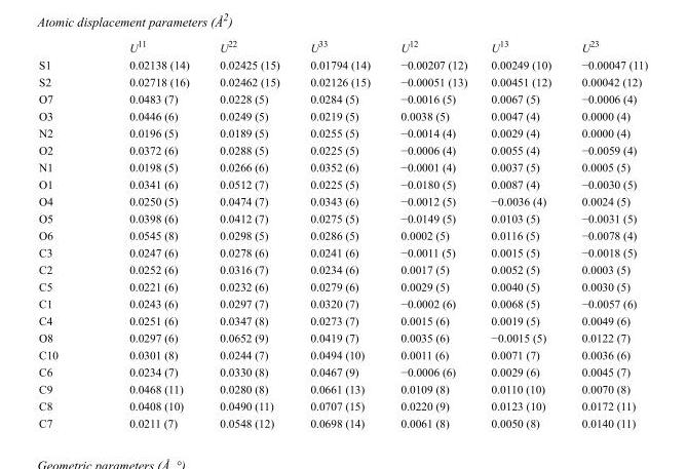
<table><thead><tr><td></td><td>U<sup>11</sup></td><td>U<sup>22</sup></td><td>U<sup>33</sup></td><td>U<sup>12</sup></td><td>U<sup>13</sup></td><td>U<sup>23</sup></td></tr></thead><tbody><tr><td>S1</td><td>0.02138 (14)</td><td>0.02425 (15)</td><td>0.01794 (14)</td><td>−0.00207 (12)</td><td>0.00249 (10)</td><td>−0.00047 (11)</td></tr><tr><td>S2</td><td>0.02718 (16)</td><td>0.02462 (15)</td><td>0.02126 (15)</td><td>−0.00051 (13)</td><td>0.00451 (12)</td><td>0.00042 (12)</td></tr><tr><td>O7</td><td>0.0483 (7)</td><td>0.0228 (5)</td><td>0.0284 (5)</td><td>−0.0016 (5)</td><td>0.0067 (5)</td><td>−0.0006 (4)</td></tr><tr><td>O3</td><td>0.0446 (6)</td><td>0.0249 (5)</td><td>0.0219 (5)</td><td>0.0038 (5)</td><td>0.0047 (4)</td><td>0.0000 (4)</td></tr><tr><td>N2</td><td>0.0196 (5)</td><td>0.0189 (5)</td><td>0.0255 (5)</td><td>−0.0014 (4)</td><td>0.0029 (4)</td><td>0.0000 (4)</td></tr><tr><td>O2</td><td>0.0372 (6)</td><td>0.0288 (5)</td><td>0.0225 (5)</td><td>−0.0006 (4)</td><td>0.0055 (4)</td><td>−0.0059 (4)</td></tr><tr><td>N1</td><td>0.0198 (5)</td><td>0.0266 (6)</td><td>0.0352 (6)</td><td>−0.0001 (4)</td><td>0.0037 (5)</td><td>0.0005 (5)</td></tr><tr><td>O1</td><td>0.0341 (6)</td><td>0.0512 (7)</td><td>0.0225 (5)</td><td>−0.0180 (5)</td><td>0.0087 (4)</td><td>−0.0030 (5)</td></tr><tr><td>O4</td><td>0.0250 (5)</td><td>0.0474 (7)</td><td>0.0343 (6)</td><td>−0.0012 (5)</td><td>−0.0036 (4)</td><td>0.0024 (5)</td></tr><tr><td>O5</td><td>0.0398 (6)</td><td>0.0412 (7)</td><td>0.0275 (5)</td><td>−0.0149 (5)</td><td>0.0103 (5)</td><td>−0.0031 (5)</td></tr><tr><td>O6</td><td>0.0545 (8)</td><td>0.0298 (5)</td><td>0.0286 (5)</td><td>0.0002 (5)</td><td>0.0116 (5)</td><td>−0.0078 (4)</td></tr><tr><td>C3</td><td>0.0247 (6)</td><td>0.0278 (6)</td><td>0.0241 (6)</td><td>−0.0011 (5)</td><td>0.0015 (5)</td><td>−0.0018 (5)</td></tr><tr><td>C2</td><td>0.0252 (6)</td><td>0.0316 (7)</td><td>0.0234 (6)</td><td>0.0017 (5)</td><td>0.0052 (5)</td><td>0.0003 (5)</td></tr><tr><td>C5</td><td>0.0221 (6)</td><td>0.0232 (6)</td><td>0.0279 (6)</td><td>0.0029 (5)</td><td>0.0040 (5)</td><td>0.0030 (5)</td></tr><tr><td>C1</td><td>0.0243 (6)</td><td>0.0297 (7)</td><td>0.0320 (7)</td><td>−0.0002 (6)</td><td>0.0068 (5)</td><td>−0.0057 (6)</td></tr><tr><td>C4</td><td>0.0251 (6)</td><td>0.0347 (8)</td><td>0.0273 (7)</td><td>0.0015 (6)</td><td>0.0019 (5)</td><td>0.0049 (6)</td></tr><tr><td>O8</td><td>0.0297 (6)</td><td>0.0652 (9)</td><td>0.0419 (7)</td><td>0.0035 (6)</td><td>−0.0015 (5)</td><td>0.0122 (7)</td></tr><tr><td>C10</td><td>0.0301 (8)</td><td>0.0244 (7)</td><td>0.0494 (10)</td><td>0.0011 (6)</td><td>0.0071 (7)</td><td>0.0036 (6)</td></tr><tr><td>C6</td><td>0.0234 (7)</td><td>0.0330 (8)</td><td>0.0467 (9)</td><td>−0.0006 (6)</td><td>0.0029 (6)</td><td>0.0045 (7)</td></tr><tr><td>C9</td><td>0.0468 (11)</td><td>0.0280 (8)</td><td>0.0661 (13)</td><td>0.0109 (8)</td><td>0.0110 (10)</td><td>0.0070 (8)</td></tr><tr><td>C8</td><td>0.0408 (10)</td><td>0.0490 (11)</td><td>0.0707 (15)</td><td>0.0220 (9)</td><td>0.0123 (10)</td><td>0.0172 (11)</td></tr><tr><td>C7</td><td>0.0211 (7)</td><td>0.0548 (12)</td><td>0.0698 (14)</td><td>0.0061 (8)</td><td>0.0050 (8)</td><td>0.0140 (11)</td></tr></tbody></table>